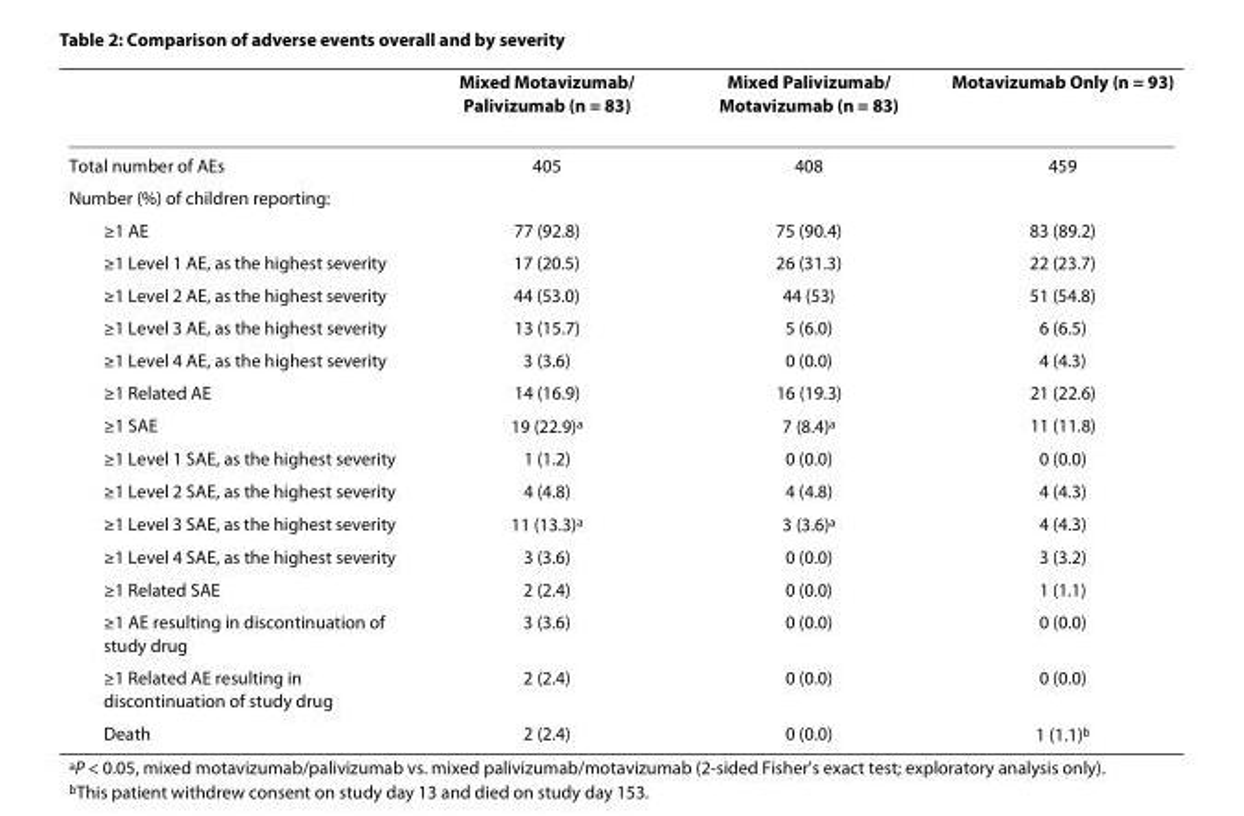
<table><thead><tr><td></td><td>Mixed Motavizumab/ Palivizumab (n = 83)</td><td>Mixed Palivizumab/ Motavizumab (n = 83)</td><td>Motavizumab Only (n = 93)</td></tr></thead><tbody><tr><td>Total number of AEs</td><td>405</td><td>408</td><td>459</td></tr><tr><td colspan="4">Number (%) of children reporting:</td></tr><tr><td>≥1 AE</td><td>77 (92.8)</td><td>75 (90.4)</td><td>83 (89.2)</td></tr><tr><td>≥1 Level 1 AE, as the highest severity</td><td>17 (20.5)</td><td>26 (31.3)</td><td>22 (23.7)</td></tr><tr><td>≥1 Level 2 AE, as the highest severity</td><td>44 (53.0)</td><td>44 (53)</td><td>51 (54.8)</td></tr><tr><td>≥1 Level 3 AE, as the highest severity</td><td>13 (15.7)</td><td>5 (6.0)</td><td>6 (6.5)</td></tr><tr><td>≥1 Level 4 AE, as the highest severity</td><td>3 (3.6)</td><td>0 (0.0)</td><td>4 (4.3)</td></tr><tr><td>≥1 Related AE</td><td>14 (16.9)</td><td>16 (19.3)</td><td>21 (22.6)</td></tr><tr><td>≥1 SAE</td><td>19 (22.9)<sup>a</sup></td><td>7 (8.4)<sup>a</sup></td><td>11 (11.8)</td></tr><tr><td>≥1 Level 1 SAE, as the highest severity</td><td>1 (1.2)</td><td>0 (0.0)</td><td>0 (0.0)</td></tr><tr><td>≥1 Level 2 SAE, as the highest severity</td><td>4 (4.8)</td><td>4 (4.8)</td><td>4 (4.3)</td></tr><tr><td>≥1 Level 3 SAE, as the highest severity</td><td>11 (13.3)<sup>a</sup></td><td>3 (3.6)<sup>a</sup></td><td>4 (4.3)</td></tr><tr><td>≥1 Level 4 SAE, as the highest severity</td><td>3 (3.6)</td><td>0 (0.0)</td><td>3 (3.2)</td></tr><tr><td>≥1 Related SAE</td><td>2 (2.4)</td><td>0 (0.0)</td><td>1 (1.1)</td></tr><tr><td>≥1 AE resulting in discontinuation of study drug</td><td>3 (3.6)</td><td>0 (0.0)</td><td>0 (0.0)</td></tr><tr><td>≥1 Related AE resulting in discontinuation of study drug</td><td>2 (2.4)</td><td>0 (0.0)</td><td>0 (0.0)</td></tr><tr><td>Death</td><td>2 (2.4)</td><td>0 (0.0)</td><td>1 (1.1)<sup>b</sup></td></tr></tbody></table>